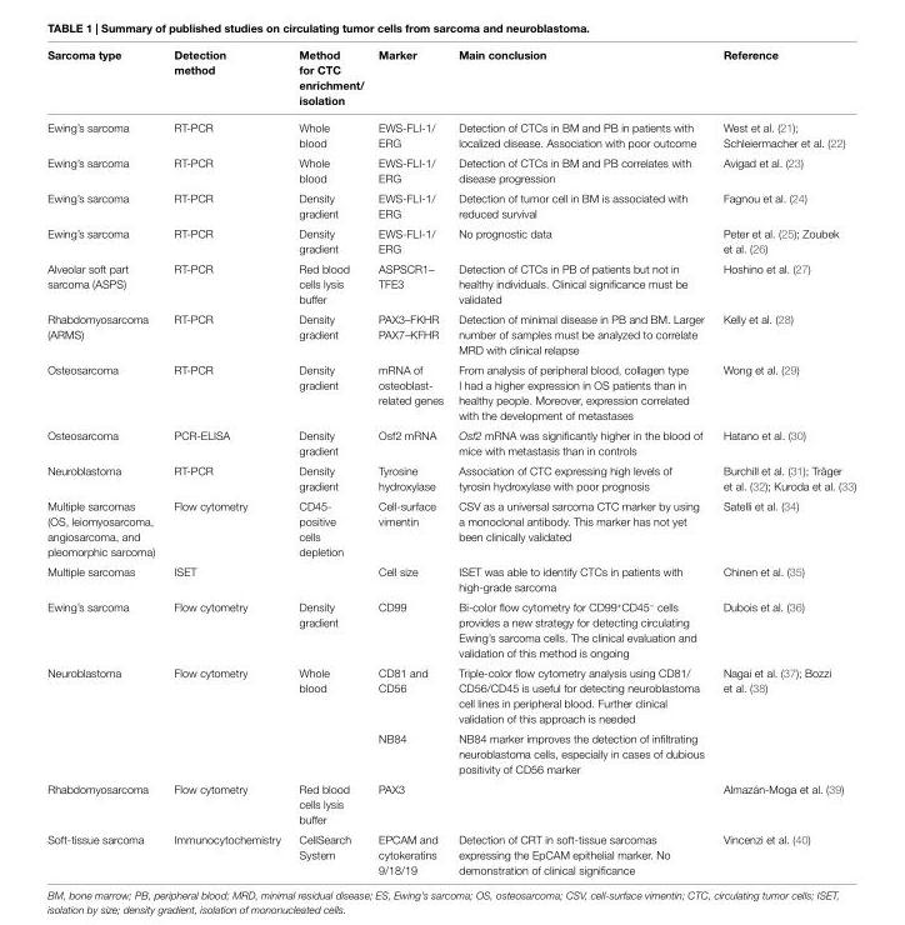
<table><thead><tr><td>Sarcoma type</td><td>Detection method</td><td>Method for CTC enrichment/ isolation</td><td>Marker</td><td>Main conclusion</td><td>Reference</td></tr></thead><tbody><tr><td>Ewing’s sarcoma</td><td>RT-PCR</td><td>Whole blood</td><td>EWS-FLI-1/ ERG</td><td>Detection of CTCs in BM and PB in patients with localized disease. Association with poor outcome</td><td>West et al. (21); Schleiermacher et al. (22)</td></tr><tr><td>Ewing’s sarcoma</td><td>RT-PCR</td><td>Whole blood</td><td>EWS-FLI-1/ ERG</td><td>Detection of CTCs in BM and PB correlates with disease progression</td><td>Avigad et al. (23)</td></tr><tr><td>Ewing’s sarcoma</td><td>RT-PCR</td><td>Density gradient</td><td>EWS-FLI-1/ ERG</td><td>Detection of tumor cell in BM is associated with reduced survival</td><td>Fagnou et al. (24)</td></tr><tr><td>Ewing’s sarcoma</td><td>RT-PCR</td><td>Density gradient</td><td>EWS-FLI-1/ ERG</td><td>No prognostic data</td><td>Peter et al. (25); Zoubek et al. (26)</td></tr><tr><td>Alveolar soft part sarcoma (ASPS)</td><td>RT-PCR</td><td>Red blood cells lysis buffer</td><td>ASPSCR1– TFE3</td><td>Detection of CTCs in PB of patients but not in healthy individuals. Clinical significance must be validated</td><td>Hoshino et al. (27)</td></tr><tr><td>Rhabdomyosarcoma (ARMS)</td><td>RT-PCR</td><td>Density gradient</td><td>PAX3–FKHR PAX7–KFHR</td><td>Detection of minimal disease in PB and BM. Larger number of samples must be analyzed to correlate MRD with clinical relapse</td><td>Kelly et al. (28)</td></tr><tr><td>Osteosarcoma</td><td>RT-PCR</td><td>Density gradient</td><td>mRNA of osteoblast- related genes</td><td>From analysis of peripheral blood, collagen type I had a higher expression in OS patients than in healthy people. Moreover, expression correlated with the development of metastases</td><td>Wong et al. (29)</td></tr><tr><td>Osteosarcoma</td><td>PCR-ELISA</td><td>Density gradient</td><td>Osf2 mRNA</td><td>Osf2 mRNA was significantly higher in the blood of mice with metastasis than in controls</td><td>Hatano et al. (30)</td></tr><tr><td>Neuroblastoma</td><td>RT-PCR</td><td>Density gradient</td><td>Tyrosine hydroxylase</td><td>Association of CTC expressing high levels of tyrosin hydroxylase with poor prognosis</td><td>Burchill et al. (31); Träger et al. (32); Kuroda et al. (33)</td></tr><tr><td>Multiple sarcomas (OS, leiomyosarcoma, angiosarcoma, and pleomorphic sarcoma)</td><td>Flow cytometry</td><td>CD45- positive cells depletion</td><td>Cell-surface vimentin</td><td>CSV as a universal sarcoma CTC marker by using a monoclonal antibody. This marker has not yet been clinically validated</td><td>Satelli et al. (34)</td></tr><tr><td>Multiple sarcomas</td><td>ISET</td><td></td><td>Cell size</td><td>ISET was able to identify CTCs in patients with high-grade sarcoma</td><td>Chinen et al. (35)</td></tr><tr><td>Ewing’s sarcoma</td><td>Flow cytometry</td><td>Density gradient</td><td>CD99</td><td>Bi-color flow cytometry for CD99<sup>+</sup>CD45<sup>−</sup> cells provides a new strategy for detecting circulating Ewing’s sarcoma cells. The clinical evaluation and validation of this method is ongoing</td><td>Dubois et al. (36)</td></tr><tr><td rowspan="2">Neuroblastoma</td><td rowspan="2">Flow cytometry</td><td rowspan="2">Whole blood</td><td>CD81 and CD56</td><td>Triple-color flow cytometry analysis using CD81/ CD56/CD45 is useful for detecting neuroblastoma cell lines in peripheral blood. Further clinical validation of this approach is needed</td><td rowspan="2">Nagai et al. (37); Bozzi et al. (38)</td></tr><tr><td>NB84</td><td>NB84 marker improves the detection of infiltrating neuroblastoma cells, especially in cases of dubious positivity of CD56 marker</td></tr><tr><td>Rhabdomyosarcoma</td><td>Flow cytometry</td><td>Red blood cells lysis buffer</td><td>PAX3</td><td></td><td>Almazán-Moga et al. (39)</td></tr><tr><td>Soft-tissue sarcoma</td><td>Immunocytochemistry</td><td>CellSearch System</td><td>EPCAM and cytokeratins 9/18/19</td><td>Detection of CRT in soft-tissue sarcomas expressing the EpCAM epithelial marker. No demonstration of clinical significance</td><td>Vincenzi et al. (40)</td></tr></tbody></table>